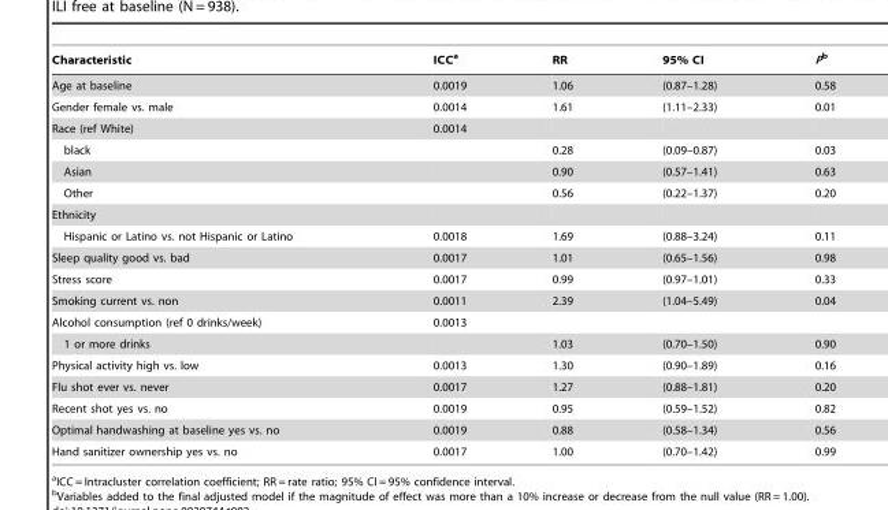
<table><thead><tr><td>Characteristic</td><td>ICC<sup>a</sup></td><td>RR</td><td>95% CI</td><td>Pb</td></tr></thead><tbody><tr><td>Age at baseline</td><td>0.0019</td><td>1.06</td><td>(0.87–1.28)</td><td>0.58</td></tr><tr><td>Gender female vs. male</td><td>0.0014</td><td>1.61</td><td>(1.11–2.33)</td><td>0.01</td></tr><tr><td>Race (ref White)</td><td>0.0014</td><td></td><td></td><td></td></tr><tr><td>black</td><td></td><td>0.28</td><td>(0.09–0.87)</td><td>0.03</td></tr><tr><td>Asian</td><td></td><td>0.90</td><td>(0.57–1.41)</td><td>0.63</td></tr><tr><td>Other</td><td></td><td>0.56</td><td>(0.22–1.37)</td><td>0.20</td></tr><tr><td colspan="5">Ethnicity</td></tr><tr><td>Hispanic or Latino vs. not Hispanic or Latino</td><td>0.0018</td><td>1.69</td><td>(0.88–3.24)</td><td>0.11</td></tr><tr><td>Sleep quality good vs. bad</td><td>0.0017</td><td>1.01</td><td>(0.65–1.56)</td><td>0.98</td></tr><tr><td>Stress score</td><td>0.0017</td><td>0.99</td><td>(0.97–1.01)</td><td>0.33</td></tr><tr><td>Smoking current vs. non</td><td>0.0011</td><td>2.39</td><td>(1.04–5.49)</td><td>0.04</td></tr><tr><td>Alcohol consumption (ref 0 drinks/week)</td><td>0.0013</td><td></td><td></td><td></td></tr><tr><td>1 or more drinks</td><td></td><td>1.03</td><td>(0.70–1.50)</td><td>0.90</td></tr><tr><td>Physical activity high vs. low</td><td>0.0013</td><td>1.30</td><td>(0.90–1.89)</td><td>0.16</td></tr><tr><td>Flu shot ever vs. never</td><td>0.0017</td><td>1.27</td><td>(0.88–1.81)</td><td>0.20</td></tr><tr><td>Recent shot yes vs. no</td><td>0.0019</td><td>0.95</td><td>(0.59–1.52)</td><td>0.82</td></tr><tr><td>Optimal handwashing at baseline yes vs. no</td><td>0.0019</td><td>0.88</td><td>(0.58–1.34)</td><td>0.56</td></tr><tr><td>Hand sanitizer ownership yes vs. no</td><td>0.0017</td><td>1.00</td><td>(0.70–1.42)</td><td>0.99</td></tr></tbody></table>